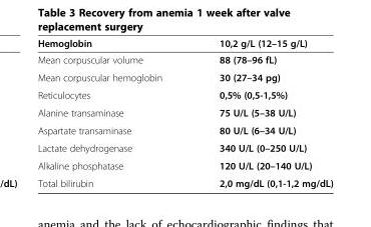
<table><thead><tr><td>Hemoglobin</td><td>10,2 g/L (12–15 g/L)</td></tr></thead><tbody><tr><td>Mean corpuscular volume</td><td>88 (78–96 fL)</td></tr><tr><td>Mean corpuscular hemoglobin</td><td>30 (27–34 pg)</td></tr><tr><td>Reticulocytes</td><td>0,5% (0,5-1,5%)</td></tr><tr><td>Alanine transaminase</td><td>75 U/L (5–38 U/L)</td></tr><tr><td>Aspartate transaminase</td><td>80 U/L (6–34 U/L)</td></tr><tr><td>Lactate dehydrogenase</td><td>340 U/L (0–250 U/L)</td></tr><tr><td>Alkaline phosphatase</td><td>120 U/L (20–140 U/L)</td></tr><tr><td>Total bilirubin</td><td>2,0 mg/dL (0,1-1,2 mg/dL)</td></tr></tbody></table>